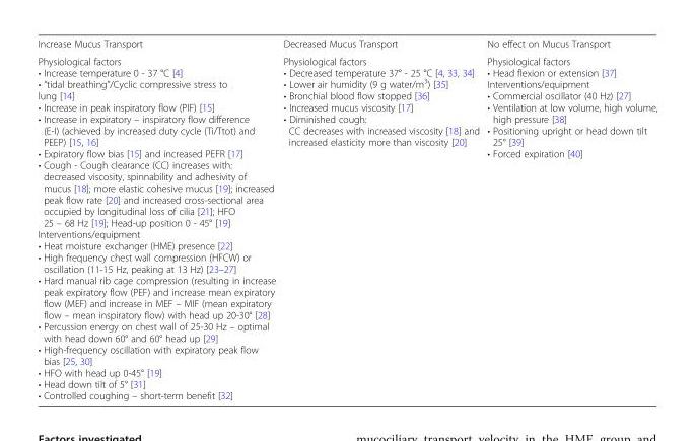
<table><tbody><tr><td>Increase Mucus Transport</td><td>Decreased Mucus Transport</td><td>No effect on Mucus Transport</td></tr><tr><td>Physiological factors • Increase temperature 0 - 37 °C [4] • “tidal breathing”/Cyclic compressive stress to lung [14] • Increase in peak inspiratory flow (PIF) [15] • Increase in expiratory – inspiratory flow difference (E-I) (achieved by increased duty cycle (Ti/Ttot) and PEEP) [15, 16] • Expiratory flow bias [15] and increased PEFR [17] • Cough - Cough clearance (CC) increases with: decreased viscosity, spinnability and adhesivity of mucus [18]; more elastic cohesive mucus [19]; increased peak flow rate [20] and increased cross-sectional area occupied by longitudinal loss of cilia [21]; HFO 25 – 68 Hz [19]; Head-up position 0 - 45° [19] Interventions/equipment • Heat moisture exchanger (HME) presence [22] • High frequency chest wall compression (HFCW) or oscillation (11-15 Hz, peaking at 13 Hz) [23–27] • Hard manual rib cage compression (resulting in increase peak expiratory flow (PEF) and increase mean expiratory flow (MEF) and increase in MEF – MIF (mean expiratory flow – mean inspiratory flow) with head up 20-30° [28] • Percussion energy on chest wall of 25-30 Hz – optimal with head down 60° and 60° head up [29] • High-frequency oscillation with expiratory peak flow bias [25, 30] • HFO with head up 0-45° [19] • Head down tilt of 5° [31] • Controlled coughing – short-term benefit [32]</td><td>Physiological factors • Decreased temperature 37° - 25 °C [4, 33, 34] • Lower air humidity (9 g water/m<sup>3</sup>) [35] • Bronchial blood flow stopped [36] • Increased mucus viscosity [17] • Diminished cough: CC decreases with increased viscosity [18] and increased elasticity more than viscosity [20]</td><td>Physiological factors • Head flexion or extension [37] Interventions/equipment • Commercial oscillator (40 Hz) [27] • Ventilation at low volume, high volume, high pressure [38] • Positioning upright or head down tilt 25° [39] • Forced expiration [40]</td></tr></tbody></table>